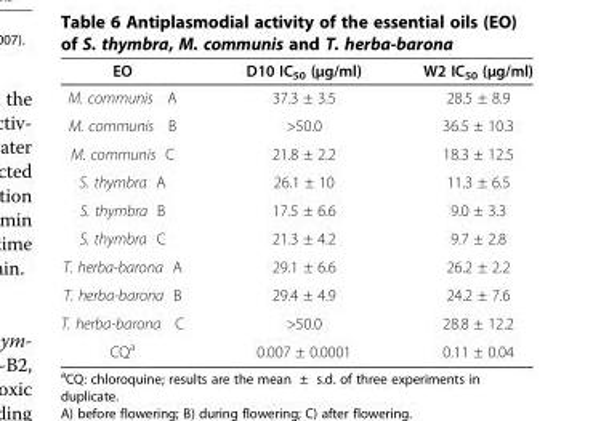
<table><thead><tr><td>EO</td><td>D10 IC<sub>50</sub> (μg/ml)</td><td>W2 IC<sub>50</sub> (μg/ml)</td></tr></thead><tbody><tr><td>M. communis A</td><td>37.3 ± 3.5</td><td>28.5 ± 8.9</td></tr><tr><td>M. communis B</td><td>&gt;50.0</td><td>36.5 ± 10.3</td></tr><tr><td>M. communis C</td><td>21.8 ± 2.2</td><td>18.3 ± 12.5</td></tr><tr><td>S. thymbra A</td><td>26.1 ± 10</td><td>11.3 ± 6.5</td></tr><tr><td>S. thymbra B</td><td>17.5 ± 6.6</td><td>9.0 ± 3.3</td></tr><tr><td>S. thymbra C</td><td>21.3 ± 4.2</td><td>9.7 ± 2.8</td></tr><tr><td>T. herba-barona A</td><td>29.1 ± 6.6</td><td>26.2 ± 2.2</td></tr><tr><td>T. herba-barona B</td><td>29.4 ± 4.9</td><td>24.2 ± 7.6</td></tr><tr><td>T. herba-barona C</td><td>&gt;50.0</td><td>28.8 ± 12.2</td></tr><tr><td>CQ<sup>a</sup></td><td>0.007 ± 0.0001</td><td>0.11 ± 0.04</td></tr></tbody></table>